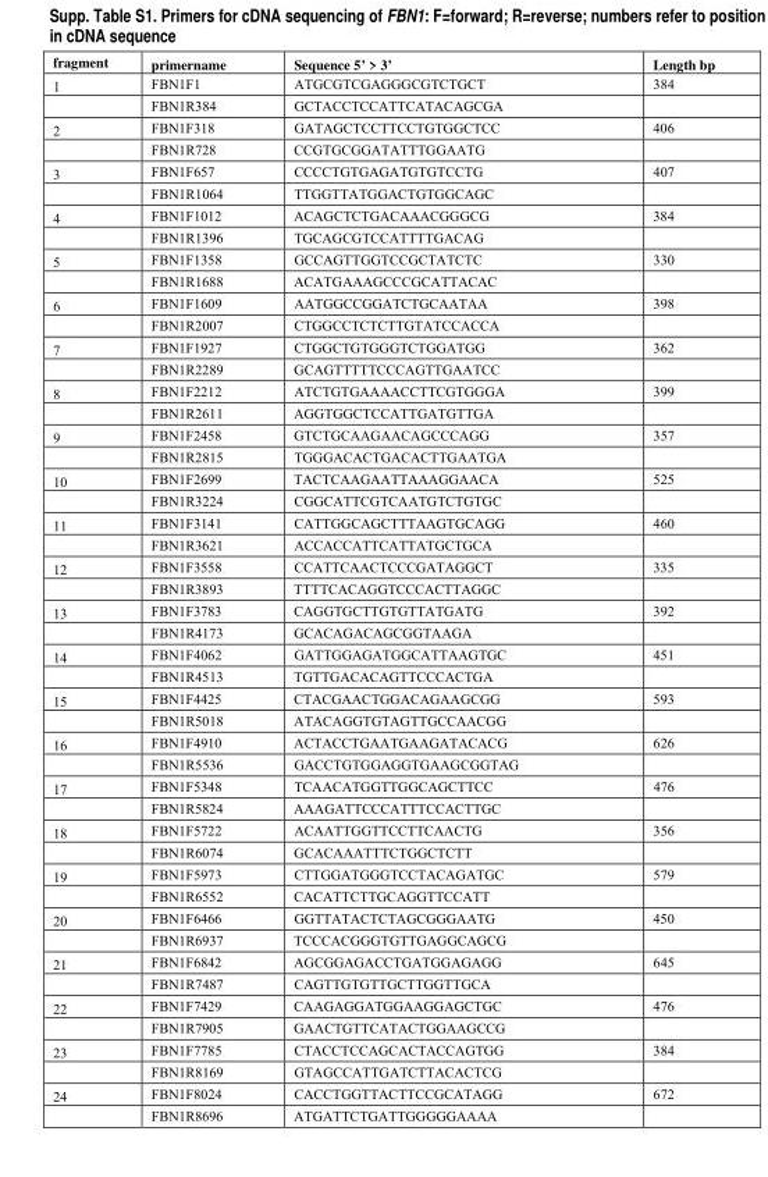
<table><thead><tr><td>fragment</td><td>primername</td><td>Sequence 5’ &gt; 3’</td><td>Length bp</td></tr></thead><tbody><tr><td rowspan="2">1</td><td>FBN1F1</td><td>ATGCGTCGAGGGCGTCTGCT</td><td>384</td></tr><tr><td>FBN1R384</td><td>GCTACCTCCATTCATACAGCGA</td><td></td></tr><tr><td rowspan="2">2</td><td>FBN1F318</td><td>GATAGCTCCTTCCTGTGGCTCC</td><td>406</td></tr><tr><td>FBN1R728</td><td>CCGTGCGGATATTTGGAATG</td><td></td></tr><tr><td rowspan="2">3</td><td>FBN1F657</td><td>CCCCTGTGAGATGTGTCCTG</td><td>407</td></tr><tr><td>FBN1R1064</td><td>TTGGTTATGGACTGTGGCAGC</td><td></td></tr><tr><td rowspan="2">4</td><td>FBN1F1012</td><td>ACAGCTCTGACAAACGGGCG</td><td>384</td></tr><tr><td>FBN1R1396</td><td>TGCAGCGTCCATTTTGACAG</td><td></td></tr><tr><td rowspan="2">5</td><td>FBN1F1358</td><td>GCCAGTTGGTCCGCTATCTC</td><td>330</td></tr><tr><td>FBN1R1688</td><td>ACATGAAAGCCCGCATTACAC</td><td></td></tr><tr><td rowspan="2">6</td><td>FBN1F1609</td><td>AATGGCCGGATCTGCAATAA</td><td>398</td></tr><tr><td>FBN1R2007</td><td>CTGGCCTCTCTTGTATCCACCA</td><td></td></tr><tr><td rowspan="2">7</td><td>FBN1F1927</td><td>CTGGCTGTGGGTCTGGATGG</td><td>362</td></tr><tr><td>FBN1R2289</td><td>GCAGTTTTTCCCAGTTGAATCC</td><td></td></tr><tr><td rowspan="2">8</td><td>FBN1F2212</td><td>ATCTGTGAAAACCTTCGTGGGA</td><td>399</td></tr><tr><td>FBN1R2611</td><td>AGGTGGCTCCATTGATGTTGA</td><td></td></tr><tr><td rowspan="2">9</td><td>FBN1F2458</td><td>GTCTGCAAGAACAGCCCAGG</td><td>357</td></tr><tr><td>FBN1R2815</td><td>TGGGACACTGACACTTGAATGA</td><td></td></tr><tr><td rowspan="2">10</td><td>FBN1F2699</td><td>TACTCAAGAATTAAAGGAACA</td><td>525</td></tr><tr><td>FBN1R3224</td><td>CGGCATTCGTCAATGTCTGTGC</td><td></td></tr><tr><td rowspan="2">11</td><td>FBN1F3141</td><td>CATTGGCAGCTTTAAGTGCAGG</td><td>460</td></tr><tr><td>FBN1R3621</td><td>ACCACCATTCATTATGCTGCA</td><td></td></tr><tr><td rowspan="2">12</td><td>FBN1F3558</td><td>CCATTCAACTCCCGATAGGCT</td><td>335</td></tr><tr><td>FBN1R3893</td><td>TTTTCACAGGTCCCACTTAGGC</td><td></td></tr><tr><td rowspan="2">13</td><td>FBN1F3783</td><td>CAGGTGCTTGTGTTATGATG</td><td>392</td></tr><tr><td>FBN1R4173</td><td>GCACAGACAGCGGTAAGA</td><td></td></tr><tr><td rowspan="2">14</td><td>FBN1F4062</td><td>GATTGGAGATGGCATTAAGTGC</td><td>451</td></tr><tr><td>FBN1R4513</td><td>TGTTGACACAGTTCCCACTGA</td><td></td></tr><tr><td rowspan="2">15</td><td>FBN1F4425</td><td>CTACGAACTGGACAGAAGCGG</td><td>593</td></tr><tr><td>FBN1R5018</td><td>ATACAGGTGTAGTTGCCAACGG</td><td></td></tr><tr><td rowspan="2">16</td><td>FBN1F4910</td><td>ACTACCTGAATGAAGATACACG</td><td>626</td></tr><tr><td>FBN1R5536</td><td>GACCTGTGGAGGTGAAGCGGTAG</td><td></td></tr><tr><td rowspan="2">17</td><td>FBN1F5348</td><td>TCAACATGGTTGGCAGCTTCC</td><td>476</td></tr><tr><td>FBN1R5824</td><td>AAAGATTCCCATTTCCACTTGC</td><td></td></tr><tr><td rowspan="2">18</td><td>FBN1F5722</td><td>ACAATTGGTTCCTTCAACTG</td><td>356</td></tr><tr><td>FBN1R6074</td><td>GCACAAATTTCTGGCTCTT</td><td></td></tr><tr><td rowspan="2">19</td><td>FBN1F5973</td><td>CTTGGATGGGTCCTACAGATGC</td><td>579</td></tr><tr><td>FBN1R6552</td><td>CACATTCTTGCAGGTTCCATT</td><td></td></tr><tr><td rowspan="2">20</td><td>FBN1F6466</td><td>GGTTATACTCTAGCGGGAATG</td><td>450</td></tr><tr><td>FBN1R6937</td><td>TCCCACGGGTGTTGAGGCAGCG</td><td></td></tr><tr><td rowspan="2">21</td><td>FBN1F6842</td><td>AGCGGAGACCTGATGGAGAGG</td><td>645</td></tr><tr><td>FBN1R7487</td><td>CAGTTGTGTTGCTTGGTTGCA</td><td></td></tr><tr><td rowspan="2">22</td><td>FBN1F7429</td><td>CAAGAGGATGGAAGGAGCTGC</td><td>476</td></tr><tr><td>FBN1R7905</td><td>GAACTGTTCATACTGGAAGCCG</td><td></td></tr><tr><td rowspan="2">23</td><td>FBN1F7785</td><td>CTACCTCCAGCACTACCAGTGG</td><td>384</td></tr><tr><td>FBN1R8169</td><td>GTAGCCATTGATCTTACACTCG</td><td></td></tr><tr><td rowspan="2">24</td><td>FBN1F8024</td><td>CACCTGGTTACTTCCGCATAGG</td><td>672</td></tr><tr><td>FBN1R8696</td><td>ATGATTCTGATTGGGGGAAAA</td><td></td></tr></tbody></table>